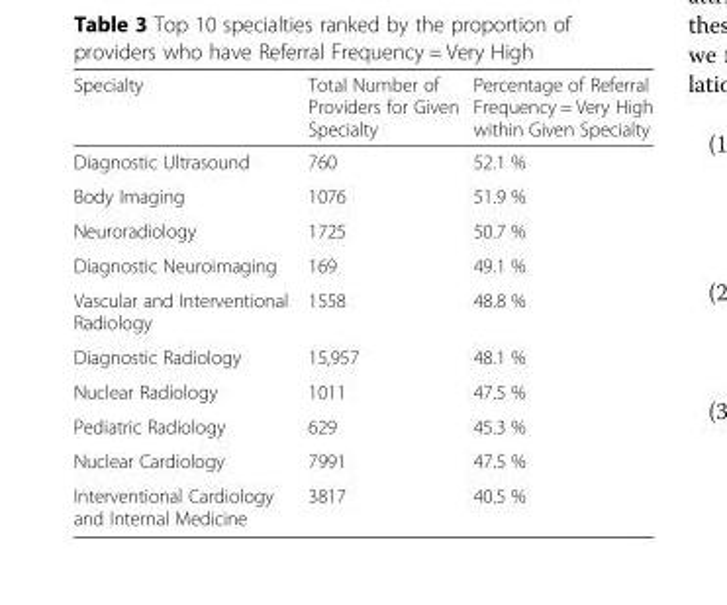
<table><thead><tr><td>Specialty</td><td>Total Number of Providers for Given Specialty</td><td>Percentage of Referral Frequency = Very High within Given Specialty</td></tr></thead><tbody><tr><td>Diagnostic Ultrasound</td><td>760</td><td>52.1 %</td></tr><tr><td>Body Imaging</td><td>1076</td><td>51.9 %</td></tr><tr><td>Neuroradiology</td><td>1725</td><td>50.7 %</td></tr><tr><td>Diagnostic Neuroimaging</td><td>169</td><td>49.1 %</td></tr><tr><td>Vascular and Interventional Radiology</td><td>1558</td><td>48.8 %</td></tr><tr><td>Diagnostic Radiology</td><td>15,957</td><td>48.1 %</td></tr><tr><td>Nuclear Radiology</td><td>1011</td><td>47.5 %</td></tr><tr><td>Pediatric Radiology</td><td>629</td><td>45.3 %</td></tr><tr><td>Nuclear Cardiology</td><td>7991</td><td>47.5 %</td></tr><tr><td>Interventional Cardiology and Internal Medicine</td><td>3817</td><td>40.5 %</td></tr></tbody></table>